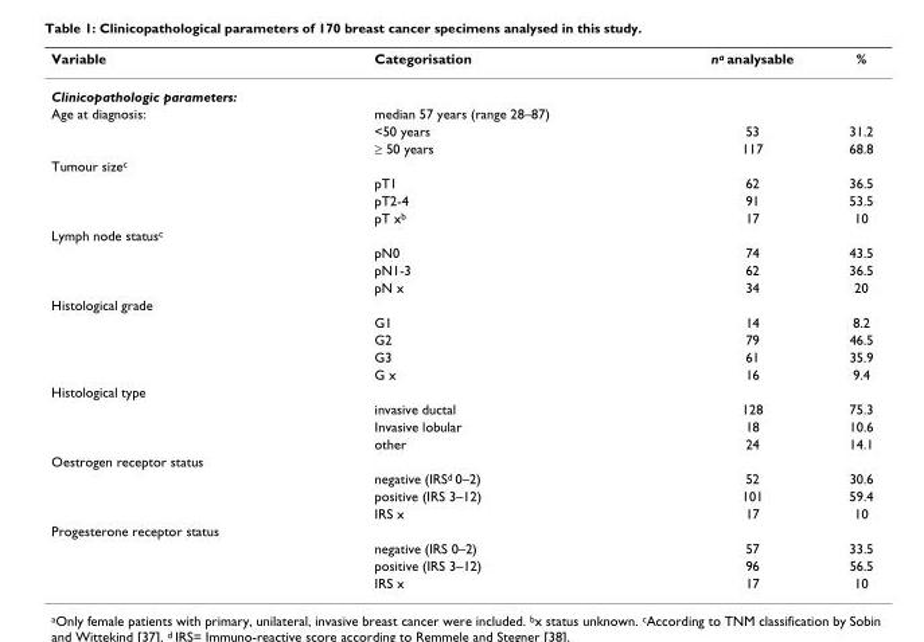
<table><thead><tr><td>Variable</td><td>Categorisation</td><td>na analysable</td><td>%</td></tr></thead><tbody><tr><td colspan="4">Clinicopathologic parameters:</td></tr><tr><td rowspan="3">Age at diagnosis:</td><td>median 57 years (range 28–87)</td><td></td><td></td></tr><tr><td>&lt;50 years</td><td>53</td><td>31.2</td></tr><tr><td>≥ 50 years</td><td>117</td><td>68.8</td></tr><tr><td colspan="4">Tumour size<sup>c</sup></td></tr><tr><td></td><td>pT1</td><td>62</td><td>36.5</td></tr><tr><td></td><td>pT2-4</td><td>91</td><td>53.5</td></tr><tr><td></td><td>pT x<sup>b</sup></td><td>17</td><td>10</td></tr><tr><td colspan="4">Lymph node status<sup>c</sup></td></tr><tr><td></td><td>pN0</td><td>74</td><td>43.5</td></tr><tr><td></td><td>pN1-3</td><td>62</td><td>36.5</td></tr><tr><td></td><td>pN x</td><td>34</td><td>20</td></tr><tr><td colspan="4">Histological grade</td></tr><tr><td></td><td>G1</td><td>14</td><td>8.2</td></tr><tr><td></td><td>G2</td><td>79</td><td>46.5</td></tr><tr><td></td><td>G3</td><td>61</td><td>35.9</td></tr><tr><td></td><td>G x</td><td>16</td><td>9.4</td></tr><tr><td colspan="4">Histological type</td></tr><tr><td></td><td>invasive ductal</td><td>128</td><td>75.3</td></tr><tr><td></td><td>Invasive lobular</td><td>18</td><td>10.6</td></tr><tr><td></td><td>other</td><td>24</td><td>14.1</td></tr><tr><td colspan="4">Oestrogen receptor status</td></tr><tr><td></td><td>negative (IRS<sup>d</sup> 0–2)</td><td>52</td><td>30.6</td></tr><tr><td></td><td>positive (IRS 3–12)</td><td>101</td><td>59.4</td></tr><tr><td></td><td>IRS x</td><td>17</td><td>10</td></tr><tr><td colspan="4">Progesterone receptor status</td></tr><tr><td></td><td>negative (IRS 0–2)</td><td>57</td><td>33.5</td></tr><tr><td></td><td>positive (IRS 3–12)</td><td>96</td><td>56.5</td></tr><tr><td></td><td>IRS x</td><td>17</td><td>10</td></tr></tbody></table>